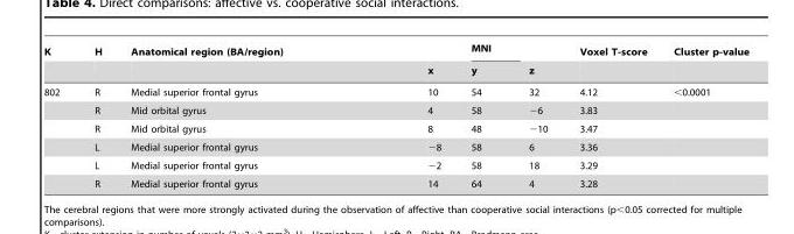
<table><thead><tr><td rowspan="2">K</td><td rowspan="2">H</td><td rowspan="2">Anatomical region (BA/region)</td><td rowspan="2">x</td><td rowspan="2">MNI y</td><td rowspan="2">z</td><td rowspan="2">Voxel T-score</td><td rowspan="2">Cluster p-value</td></tr><tr></tr></thead><tbody><tr><td rowspan="6">802</td><td>R</td><td>Medial superior frontal gyrus</td><td>10</td><td>54</td><td>32</td><td>4.12</td><td>&lt;0.0001</td></tr><tr><td>R</td><td>Mid orbital gyrus</td><td>4</td><td>58</td><td>−6</td><td>3.83</td><td></td></tr><tr><td>R</td><td>Mid orbital gyrus</td><td>8</td><td>48</td><td>−10</td><td>3.47</td><td></td></tr><tr><td>L</td><td>Medial superior frontal gyrus</td><td>−8</td><td>58</td><td>6</td><td>3.36</td><td></td></tr><tr><td>L</td><td>Medial superior frontal gyrus</td><td>−2</td><td>58</td><td>18</td><td>3.29</td><td></td></tr><tr><td>R</td><td>Medial superior frontal gyrus</td><td>14</td><td>64</td><td>4</td><td>3.28</td><td></td></tr></tbody></table>